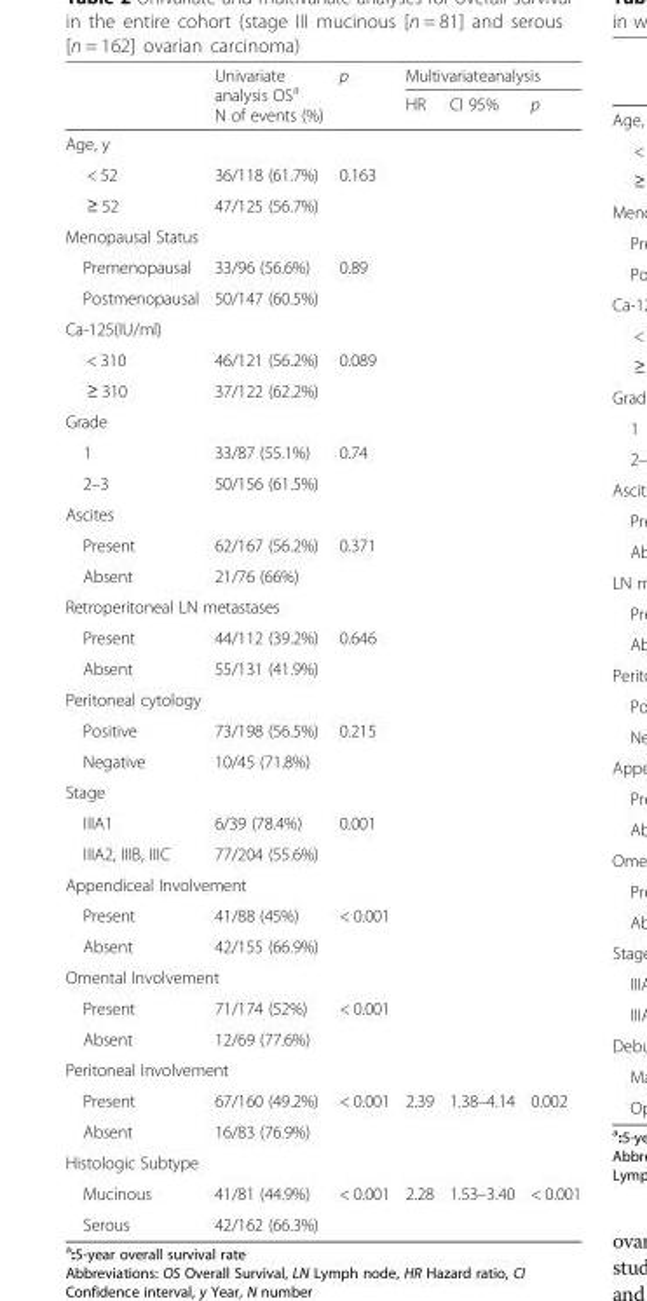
<table><thead><tr><td rowspan="2"></td><td rowspan="2">Univariate analysis OS<sup>a</sup> N of events (%)</td><td rowspan="2">p</td><td colspan="3">Multivariateanalysis</td></tr><tr><td>HR</td><td>CI 95%</td><td>p</td></tr></thead><tbody><tr><td colspan="6">Age, y</td></tr><tr><td>&lt; 52</td><td>36/118 (61.7%)</td><td rowspan="2">0.163</td><td></td><td></td><td></td></tr><tr><td>≥ 52</td><td>47/125 (56.7%)</td><td></td><td></td><td></td></tr><tr><td colspan="6">Menopausal Status</td></tr><tr><td>Premenopausal</td><td>33/96 (56.6%)</td><td rowspan="2">0.89</td><td></td><td></td><td></td></tr><tr><td>Postmenopausal</td><td>50/147 (60.5%)</td><td></td><td></td><td></td></tr><tr><td colspan="6">Ca-125(IU/ml)</td></tr><tr><td>&lt; 310</td><td>46/121 (56.2%)</td><td rowspan="2">0.089</td><td></td><td></td><td></td></tr><tr><td>≥ 310</td><td>37/122 (62.2%)</td><td></td><td></td><td></td></tr><tr><td colspan="6">Grade</td></tr><tr><td>1</td><td>33/87 (55.1%)</td><td rowspan="2">0.74</td><td></td><td></td><td></td></tr><tr><td>2–3</td><td>50/156 (61.5%)</td><td></td><td></td><td></td></tr><tr><td colspan="6">Ascites</td></tr><tr><td>Present</td><td>62/167 (56.2%)</td><td rowspan="2">0.371</td><td></td><td></td><td></td></tr><tr><td>Absent</td><td>21/76 (66%)</td><td></td><td></td><td></td></tr><tr><td colspan="6">Retroperitoneal LN metastases</td></tr><tr><td>Present</td><td>44/112 (39.2%)</td><td rowspan="2">0.646</td><td></td><td></td><td></td></tr><tr><td>Absent</td><td>55/131 (41.9%)</td><td></td><td></td><td></td></tr><tr><td colspan="6">Peritoneal cytology</td></tr><tr><td>Positive</td><td>73/198 (56.5%)</td><td rowspan="2">0.215</td><td></td><td></td><td></td></tr><tr><td>Negative</td><td>10/45 (71.8%)</td><td></td><td></td><td></td></tr><tr><td colspan="6">Stage</td></tr><tr><td>IIIA1</td><td>6/39 (78.4%)</td><td rowspan="2">0.001</td><td></td><td></td><td></td></tr><tr><td>IIIA2, IIIB, IIIC</td><td>77/204 (55.6%)</td><td></td><td></td><td></td></tr><tr><td colspan="6">Appendiceal Involvement</td></tr><tr><td>Present</td><td>41/88 (45%)</td><td rowspan="2">&lt; 0.001</td><td></td><td></td><td></td></tr><tr><td>Absent</td><td>42/155 (66.9%)</td><td></td><td></td><td></td></tr><tr><td colspan="6">Omental Involvement</td></tr><tr><td>Present</td><td>71/174 (52%)</td><td rowspan="2">&lt; 0.001</td><td rowspan="2"></td><td rowspan="2"></td><td rowspan="2"></td></tr><tr><td>Absent</td><td>12/69 (77.6%)</td></tr><tr><td colspan="6">Peritoneal Involvement</td></tr><tr><td>Present</td><td>67/160 (49.2%)</td><td rowspan="2">&lt; 0.001</td><td rowspan="2">2.39</td><td rowspan="2">1.38–4.14</td><td rowspan="2">0.002</td></tr><tr><td>Absent</td><td>16/83 (76.9%)</td></tr><tr><td colspan="6">Histologic Subtype</td></tr><tr><td>Mucinous</td><td>41/81 (44.9%)</td><td rowspan="2">&lt; 0.001</td><td rowspan="2">2.28</td><td rowspan="2">1.53–3.40</td><td rowspan="2">&lt; 0.001</td></tr><tr><td>Serous</td><td>42/162 (66.3%)</td></tr></tbody></table>